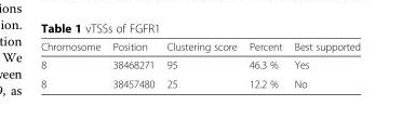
<table><thead><tr><td>Chromosome</td><td>Position</td><td>Clustering score</td><td>Percent</td><td>Best supported</td></tr></thead><tbody><tr><td>8</td><td>38468271</td><td>95</td><td>46.3 %</td><td>Yes</td></tr><tr><td>8</td><td>38457480</td><td>25</td><td>12.2 %</td><td>No</td></tr></tbody></table>